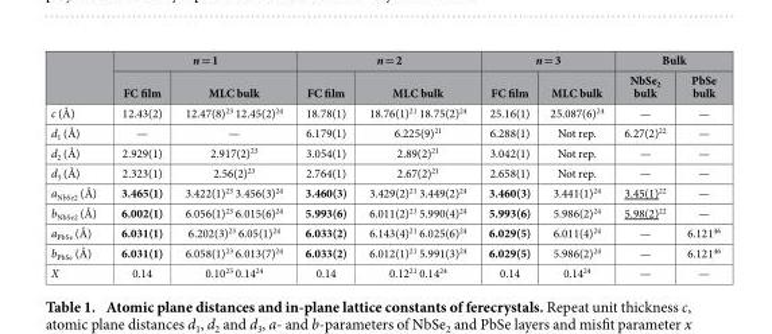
<table><thead><tr><td rowspan="2"></td><td colspan="2">n = 1</td><td colspan="2">n = 2</td><td colspan="2">n = 3</td><td colspan="2">Bulk</td></tr><tr><td>FC film</td><td>MLC bulk</td><td>FC film</td><td>MLC bulk</td><td>FC film</td><td>MLC bulk</td><td>NbSe<sub>2</sub> bulk</td><td>PbSe bulk</td></tr></thead><tbody><tr><td>c (Å)</td><td>12.43(2)</td><td>12.47(8)<sup>23</sup> 12.45(2)<sup>24</sup></td><td>18.78(1)</td><td>18.76(1)<sup>21</sup> 18.75(2)<sup>24</sup></td><td>25.16(1)</td><td>25.087(6)<sup>24</sup></td><td>—</td><td>—</td></tr><tr><td>d<sub>1</sub> (Å)</td><td>—</td><td>—</td><td>6.179(1)</td><td>6.225(9)<sup>21</sup></td><td>6.288(1)</td><td>Not rep.</td><td>6.27(2)<sup>22</sup></td><td>—</td></tr><tr><td>d<sub>2</sub> (Å)</td><td>2.929(1)</td><td>2.917(2)<sup>23</sup></td><td>3.054(1)</td><td>2.89(2)<sup>21</sup></td><td>3.042(1)</td><td>Not rep.</td><td>—</td><td>—</td></tr><tr><td>d<sub>3</sub> (Å)</td><td>2.323(1)</td><td>2.56(2)<sup>23</sup></td><td>2.764(1)</td><td>2.67(2)<sup>21</sup></td><td>2.658(1)</td><td>Not rep.</td><td>—</td><td>—</td></tr><tr><td>a<sub>NbSe2</sub> (Å)</td><td>3.465(1)</td><td>3.422(1)<sup>23</sup> 3.456(3)<sup>24</sup></td><td>3.460(3)</td><td>3.429(2)<sup>21</sup> 3.449(2)<sup>24</sup></td><td>3.460(3)</td><td>3.441(1)<sup>24</sup></td><td>3.45(1)<sup>22</sup></td><td>—</td></tr><tr><td>b<sub>NbSe2</sub> (Å)</td><td>6.002(1)</td><td>6.056(1)<sup>23</sup> 6.015(6)<sup>24</sup></td><td>5.993(6)</td><td>6.011(2)<sup>21</sup> 5.990(4)<sup>24</sup></td><td>5.993(6)</td><td>5.986(2)<sup>24</sup></td><td>5.98(2)<sup>22</sup></td><td>—</td></tr><tr><td>a<sub>PbSe</sub> (Å)</td><td>6.031(1)</td><td>6.202(3)<sup>23</sup> 6.05(1)<sup>24</sup></td><td>6.033(2)</td><td>6.143(4)<sup>21</sup> 6.025(6)<sup>24</sup></td><td>6.029(5)</td><td>6.011(4)<sup>24</sup></td><td>—</td><td>6.121<sup>46</sup></td></tr><tr><td>b<sub>PbSe</sub> (Å)</td><td>6.031(1)</td><td>6.058(1)<sup>23</sup> 6.013(7)<sup>24</sup></td><td>6.033(2)</td><td>6.012(1)<sup>21</sup> 5.991(3)<sup>24</sup></td><td>6.029(5)</td><td>5.986(2)<sup>24</sup></td><td>—</td><td>6.121<sup>46</sup></td></tr><tr><td>X</td><td>0.14</td><td>0.10<sup>23</sup> 0.14<sup>24</sup></td><td>0.14</td><td>0.12<sup>21</sup> 0.14<sup>24</sup></td><td>0.14</td><td>0.14<sup>24</sup></td><td>—</td><td>—</td></tr></tbody></table>